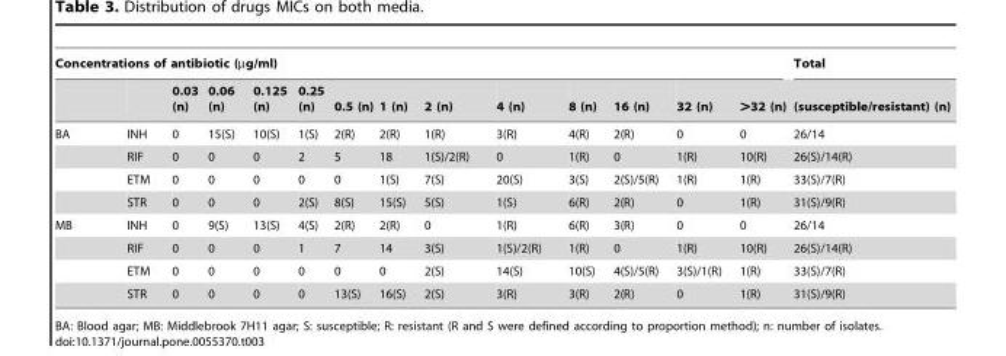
<table><thead><tr><td colspan="14">Concentrations of antibiotic (µg/ml)</td><td rowspan="2">Total (susceptible/resistant) (n)</td></tr><tr><td></td><td></td><td>0.03 (n)</td><td>0.06 (n)</td><td>0.125 (n)</td><td>0.25 (n)</td><td>0.5 (n)</td><td>1 (n)</td><td>2 (n)</td><td>4 (n)</td><td>8 (n)</td><td>16 (n)</td><td>32 (n)</td><td>&gt;32 (n)</td></tr></thead><tbody><tr><td rowspan="4">BA</td><td>INH</td><td>0</td><td>15(S)</td><td>10(S)</td><td>1(S)</td><td>2(R)</td><td>2(R)</td><td>1(R)</td><td>3(R)</td><td>4(R)</td><td>2(R)</td><td>0</td><td>0</td><td>26/14</td></tr><tr><td>RIF</td><td>0</td><td>0</td><td>0</td><td>2</td><td>5</td><td>18</td><td>1(S)/2(R)</td><td>0</td><td>1(R)</td><td>0</td><td>1(R)</td><td>10(R)</td><td>26(S)/14(R)</td></tr><tr><td>ETM</td><td>0</td><td>0</td><td>0</td><td>0</td><td>0</td><td>1(S)</td><td>7(S)</td><td>20(S)</td><td>3(S)</td><td>2(S)/5(R)</td><td>1(R)</td><td>1(R)</td><td>33(S)/7(R)</td></tr><tr><td>STR</td><td>0</td><td>0</td><td>0</td><td>2(S)</td><td>8(S)</td><td>15(S)</td><td>5(S)</td><td>1(S)</td><td>6(R)</td><td>2(R)</td><td>0</td><td>1(R)</td><td>31(S)/9(R)</td></tr><tr><td rowspan="4">MB</td><td>INH</td><td>0</td><td>9(S)</td><td>13(S)</td><td>4(S)</td><td>2(R)</td><td>2(R)</td><td>0</td><td>1(R)</td><td>6(R)</td><td>3(R)</td><td>0</td><td>0</td><td>26/14</td></tr><tr><td>RIF</td><td>0</td><td>0</td><td>0</td><td>1</td><td>7</td><td>14</td><td>3(S)</td><td>1(S)/2(R)</td><td>1(R)</td><td>0</td><td>1(R)</td><td>10(R)</td><td>26(S)/14(R)</td></tr><tr><td>ETM</td><td>0</td><td>0</td><td>0</td><td>0</td><td>0</td><td>0</td><td>2(S)</td><td>14(S)</td><td>10(S)</td><td>4(S)/5(R)</td><td>3(S)/1(R)</td><td>1(R)</td><td>33(S)/7(R)</td></tr><tr><td>STR</td><td>0</td><td>0</td><td>0</td><td>0</td><td>13(S)</td><td>16(S)</td><td>2(S)</td><td>3(R)</td><td>3(R)</td><td>2(R)</td><td>0</td><td>1(R)</td><td>31(S)/9(R)</td></tr></tbody></table>